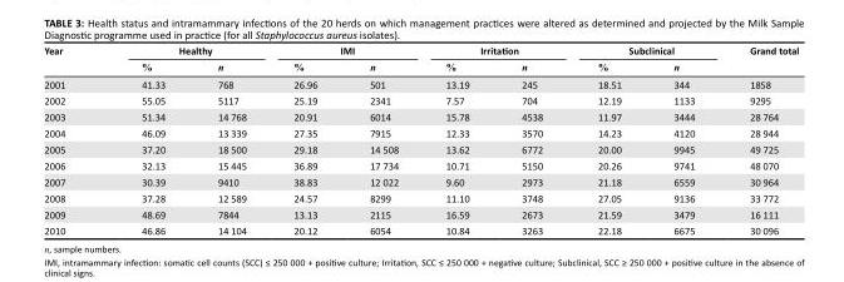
<table><thead><tr><td rowspan="2">Year</td><td colspan="2">Healthy</td><td colspan="2">IMI</td><td colspan="2">Irritation</td><td colspan="2">Subclinical</td><td rowspan="2">Grand total</td></tr><tr><td>%</td><td>n</td><td>%</td><td>n</td><td>%</td><td>n</td><td>%</td><td>n</td></tr></thead><tbody><tr><td>2001</td><td>41.33</td><td>768</td><td>26.96</td><td>501</td><td>13.19</td><td>245</td><td>18.51</td><td>344</td><td>1858</td></tr><tr><td>2002</td><td>55.05</td><td>5117</td><td>25.19</td><td>2341</td><td>7.57</td><td>704</td><td>12.19</td><td>1133</td><td>9295</td></tr><tr><td>2003</td><td>51.34</td><td>14 768</td><td>20.91</td><td>6014</td><td>15.78</td><td>4538</td><td>11.97</td><td>3444</td><td>28 764</td></tr><tr><td>2004</td><td>46.09</td><td>13 339</td><td>27.35</td><td>7915</td><td>12.33</td><td>3570</td><td>14.23</td><td>4120</td><td>28 944</td></tr><tr><td>2005</td><td>37.20</td><td>18 500</td><td>29.18</td><td>14 508</td><td>13.62</td><td>6772</td><td>20.00</td><td>9945</td><td>49 725</td></tr><tr><td>2006</td><td>32.13</td><td>15 445</td><td>36.89</td><td>17 734</td><td>10.71</td><td>5150</td><td>20.26</td><td>9741</td><td>48 070</td></tr><tr><td>2007</td><td>30.39</td><td>9410</td><td>38.83</td><td>12 022</td><td>9.60</td><td>2973</td><td>21.18</td><td>6559</td><td>30 964</td></tr><tr><td>2008</td><td>37.28</td><td>12 589</td><td>24.57</td><td>8299</td><td>11.10</td><td>3748</td><td>27.05</td><td>9136</td><td>33 772</td></tr><tr><td>2009</td><td>48.69</td><td>7844</td><td>13.13</td><td>2115</td><td>16.59</td><td>2673</td><td>21.59</td><td>3479</td><td>16 111</td></tr><tr><td>2010</td><td>46.86</td><td>14 104</td><td>20.12</td><td>6054</td><td>10.84</td><td>3263</td><td>22.18</td><td>6675</td><td>30 096</td></tr></tbody></table>